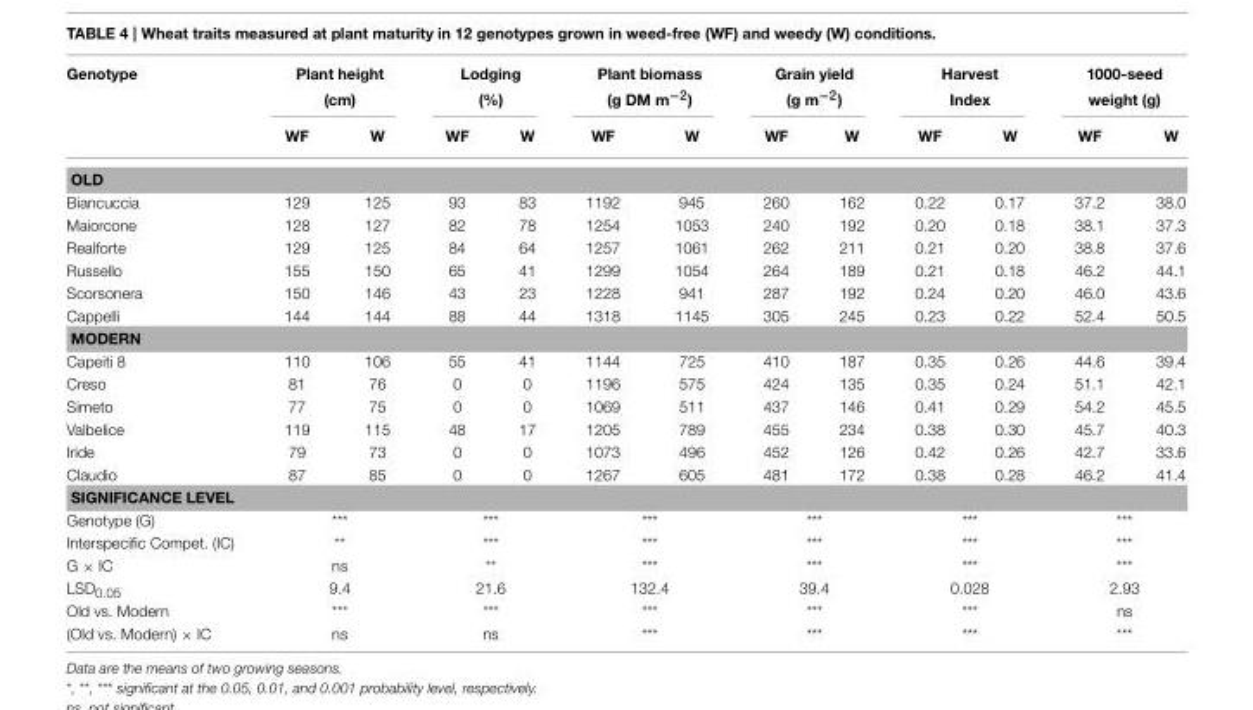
<table><thead><tr><td rowspan="2">Genotype</td><td colspan="2">Plant height (cm)</td><td colspan="2">Lodging (%)</td><td colspan="2">Plant biomass (g DM m<sup>−2</sup>)</td><td colspan="2">Grain yield (g m<sup>−2</sup>)</td><td colspan="2">Harvest Index</td><td colspan="2">1000-seed weight (g)</td></tr><tr><td>WF</td><td>W</td><td>WF</td><td>W</td><td>WF</td><td>W</td><td>WF</td><td>W</td><td>WF</td><td>W</td><td>WF</td><td>W</td></tr></thead><tbody><tr><td colspan="13">OLD</td></tr><tr><td>Biancuccia</td><td>129</td><td>125</td><td>93</td><td>83</td><td>1192</td><td>945</td><td>260</td><td>162</td><td>0.22</td><td>0.17</td><td>37.2</td><td>38.0</td></tr><tr><td>Maiorcone</td><td>128</td><td>127</td><td>82</td><td>78</td><td>1254</td><td>1053</td><td>240</td><td>192</td><td>0.20</td><td>0.18</td><td>38.1</td><td>37.3</td></tr><tr><td>Realforte</td><td>129</td><td>125</td><td>84</td><td>64</td><td>1257</td><td>1061</td><td>262</td><td>211</td><td>0.21</td><td>0.20</td><td>38.8</td><td>37.6</td></tr><tr><td>Russello</td><td>155</td><td>150</td><td>65</td><td>41</td><td>1299</td><td>1054</td><td>264</td><td>189</td><td>0.21</td><td>0.18</td><td>46.2</td><td>44.1</td></tr><tr><td>Scorsonera</td><td>150</td><td>146</td><td>43</td><td>23</td><td>1228</td><td>941</td><td>287</td><td>192</td><td>0.24</td><td>0.20</td><td>46.0</td><td>43.6</td></tr><tr><td>Cappelli</td><td>144</td><td>144</td><td>88</td><td>44</td><td>1318</td><td>1145</td><td>305</td><td>245</td><td>0.23</td><td>0.22</td><td>52.4</td><td>50.5</td></tr><tr><td colspan="13">MODERN</td></tr><tr><td>Capeiti 8</td><td>110</td><td>106</td><td>55</td><td>41</td><td>1144</td><td>725</td><td>410</td><td>187</td><td>0.35</td><td>0.26</td><td>44.6</td><td>39.4</td></tr><tr><td>Creso</td><td>81</td><td>76</td><td>0</td><td>0</td><td>1196</td><td>575</td><td>424</td><td>135</td><td>0.35</td><td>0.24</td><td>51.1</td><td>42.1</td></tr><tr><td>Simeto</td><td>77</td><td>75</td><td>0</td><td>0</td><td>1069</td><td>511</td><td>437</td><td>146</td><td>0.41</td><td>0.29</td><td>54.2</td><td>45.5</td></tr><tr><td>Valbelice</td><td>119</td><td>115</td><td>48</td><td>17</td><td>1205</td><td>789</td><td>455</td><td>234</td><td>0.38</td><td>0.30</td><td>45.7</td><td>40.3</td></tr><tr><td>Iride</td><td>79</td><td>73</td><td>0</td><td>0</td><td>1073</td><td>496</td><td>452</td><td>126</td><td>0.42</td><td>0.26</td><td>42.7</td><td>33.6</td></tr><tr><td>Claudio</td><td>87</td><td>85</td><td>0</td><td>0</td><td>1267</td><td>605</td><td>481</td><td>172</td><td>0.38</td><td>0.28</td><td>46.2</td><td>41.4</td></tr><tr><td colspan="13">SIGNIFICANCE LEVEL</td></tr><tr><td>Genotype (G)</td><td colspan="2">***</td><td colspan="2">***</td><td colspan="2">***</td><td colspan="2">***</td><td colspan="2">***</td><td colspan="2">***</td></tr><tr><td>Interspecific Compet. (IC)</td><td colspan="2">**</td><td colspan="2">***</td><td colspan="2">***</td><td colspan="2">***</td><td colspan="2">***</td><td colspan="2">***</td></tr><tr><td>G × IC</td><td colspan="2">ns</td><td colspan="2">**</td><td colspan="2">***</td><td colspan="2">***</td><td colspan="2">***</td><td colspan="2">***</td></tr><tr><td>LSD<sub>0.05</sub></td><td colspan="2">9.4</td><td colspan="2">21.6</td><td colspan="2">132.4</td><td colspan="2">39.4</td><td colspan="2">0.028</td><td colspan="2">2.93</td></tr><tr><td>Old vs. Modern</td><td colspan="2">***</td><td colspan="2">***</td><td colspan="2">***</td><td colspan="2">***</td><td colspan="2">***</td><td colspan="2">ns</td></tr><tr><td>(Old vs. Modern) × IC</td><td colspan="2">ns</td><td colspan="2">ns</td><td colspan="2">***</td><td colspan="2">***</td><td colspan="2">***</td><td colspan="2">***</td></tr></tbody></table>